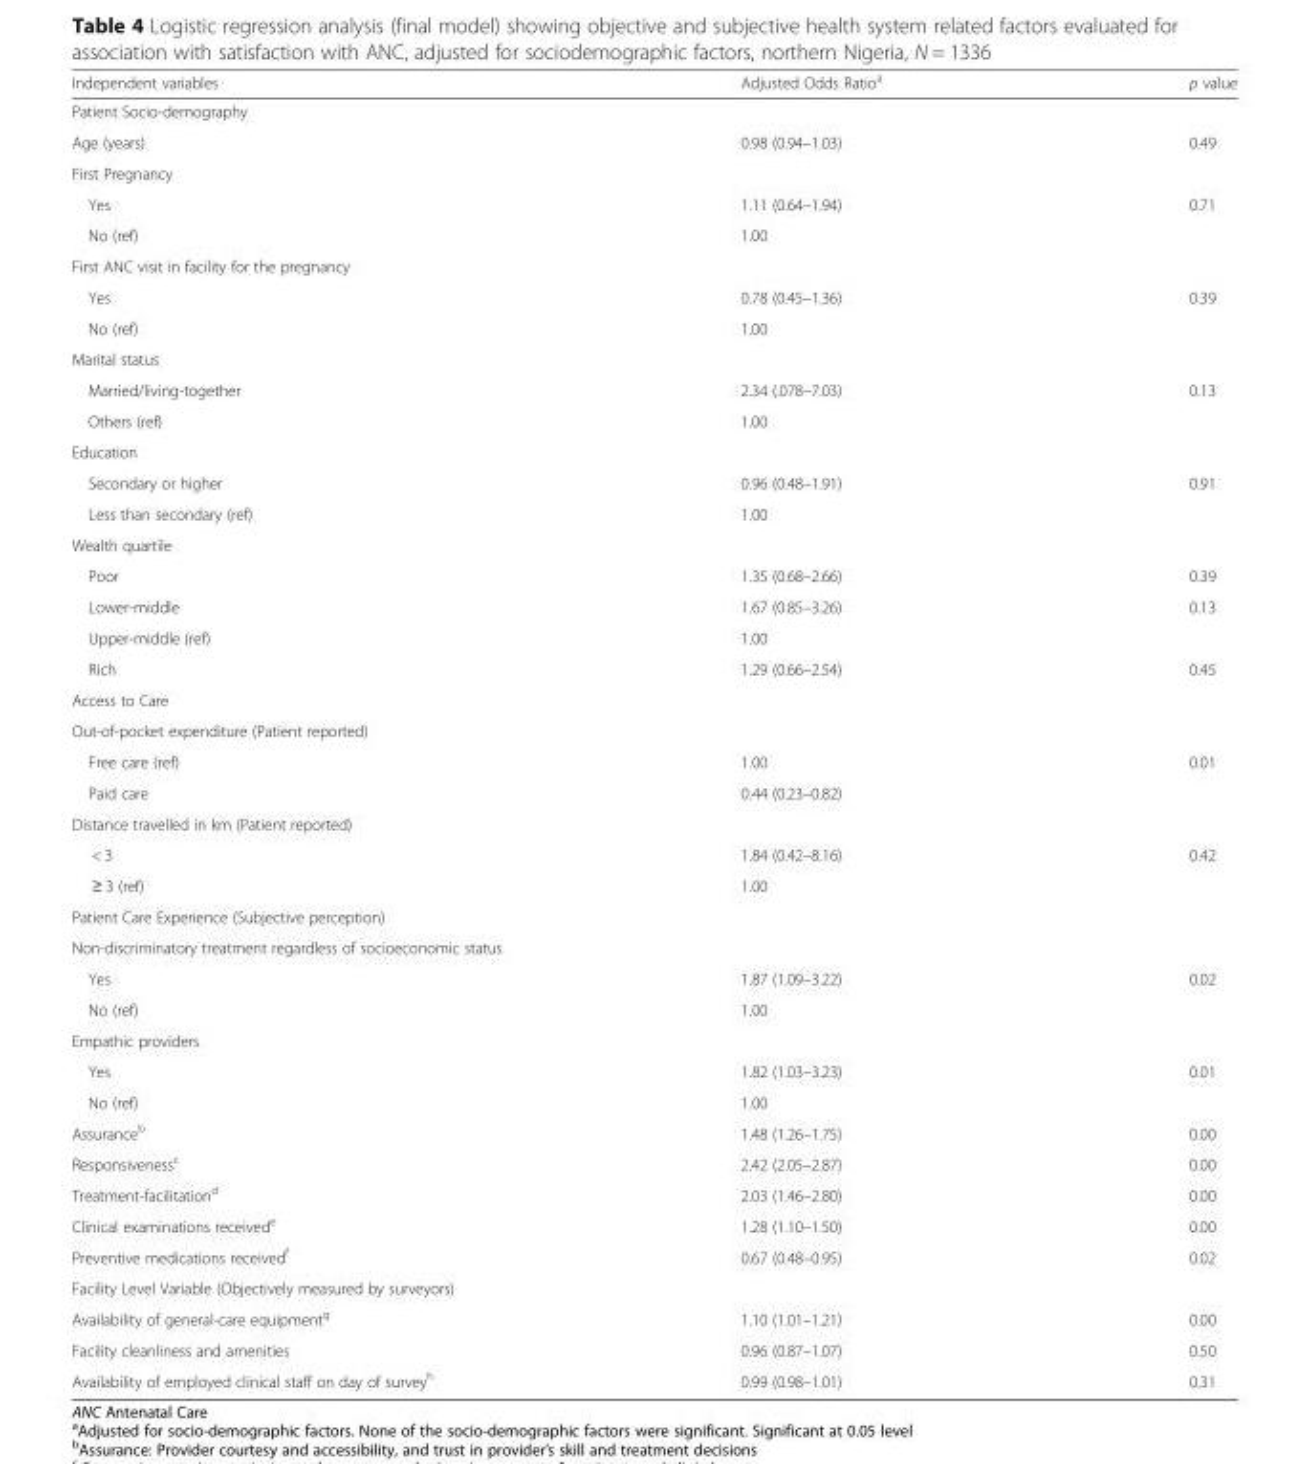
<table><thead><tr><td>Independent variables</td><td>Adjusted Odds Ratio<sup>a</sup></td><td>p value</td></tr></thead><tbody><tr><td colspan="3">Patient Socio-demography</td></tr><tr><td>Age (years)</td><td>0.98 (0.94–1.03)</td><td>0.49</td></tr><tr><td colspan="3">First Pregnancy</td></tr><tr><td>Yes</td><td>1.11 (0.64–1.94)</td><td>0.71</td></tr><tr><td>No (ref)</td><td>1.00</td><td></td></tr><tr><td colspan="3">First ANC visit in facility for the pregnancy</td></tr><tr><td>Yes</td><td>0.78 (0.45–1.36)</td><td>0.39</td></tr><tr><td>No (ref)</td><td>1.00</td><td></td></tr><tr><td colspan="3">Marital status</td></tr><tr><td>Married/living-together</td><td>2.34 (.078–7.03)</td><td>0.13</td></tr><tr><td>Others (ref)</td><td>1.00</td><td></td></tr><tr><td colspan="3">Education</td></tr><tr><td>Secondary or higher</td><td>0.96 (0.48–1.91)</td><td>0.91</td></tr><tr><td>Less than secondary (ref)</td><td>1.00</td><td></td></tr><tr><td colspan="3">Wealth quartile</td></tr><tr><td>Poor</td><td>1.35 (0.68–2.66)</td><td>0.39</td></tr><tr><td>Lower-middle</td><td>1.67 (0.85–3.26)</td><td>0.13</td></tr><tr><td>Upper-middle (ref)</td><td>1.00</td><td></td></tr><tr><td>Rich</td><td>1.29 (0.66–2.54)</td><td>0.45</td></tr><tr><td colspan="3">Access to Care</td></tr><tr><td colspan="3">Out-of-pocket expenditure (Patient reported)</td></tr><tr><td>Free care (ref)</td><td>1.00</td><td>0.01</td></tr><tr><td>Paid care</td><td>0.44 (0.23–0.82)</td><td></td></tr><tr><td colspan="3">Distance travelled in km (Patient reported)</td></tr><tr><td>&lt; 3</td><td>1.84 (0.42–8.16)</td><td>0.42</td></tr><tr><td>≥ 3 (ref)</td><td>1.00</td><td></td></tr><tr><td colspan="3">Patient Care Experience (Subjective perception)</td></tr><tr><td colspan="3">Non-discriminatory treatment regardless of socioeconomic status</td></tr><tr><td>Yes</td><td>1.87 (1.09–3.22)</td><td>0.02</td></tr><tr><td>No (ref)</td><td>1.00</td><td></td></tr><tr><td colspan="3">Empathic providers</td></tr><tr><td>Yes</td><td>1.82 (1.03–3.23)</td><td>0.01</td></tr><tr><td>No (ref)</td><td>1.00</td><td></td></tr><tr><td>Assurance<sup>b</sup></td><td>1.48 (1.26–1.75)</td><td>0.00</td></tr><tr><td>Responsiveness<sup>c</sup></td><td>2.42 (2.05–2.87)</td><td>0.00</td></tr><tr><td>Treatment-facilitation<sup>d</sup></td><td>2.03 (1.46–2.80)</td><td>0.00</td></tr><tr><td>Clinical examinations received<sup>e</sup></td><td>1.28 (1.10–1.50)</td><td>0.00</td></tr><tr><td>Preventive medications received<sup>f</sup></td><td>0.67 (0.48–0.95)</td><td>0.02</td></tr><tr><td colspan="3">Facility Level Variable (Objectively measured by surveyors)</td></tr><tr><td>Availability of general-care equipment<sup>g</sup></td><td>1.10 (1.01–1.21)</td><td>0.00</td></tr><tr><td>Facility cleanliness and amenities</td><td>0.96 (0.87–1.07)</td><td>0.50</td></tr><tr><td>Availability of employed clinical staff on day of survey<sup>h</sup></td><td>0.99 (0.98–1.01)</td><td>0.31</td></tr></tbody></table>